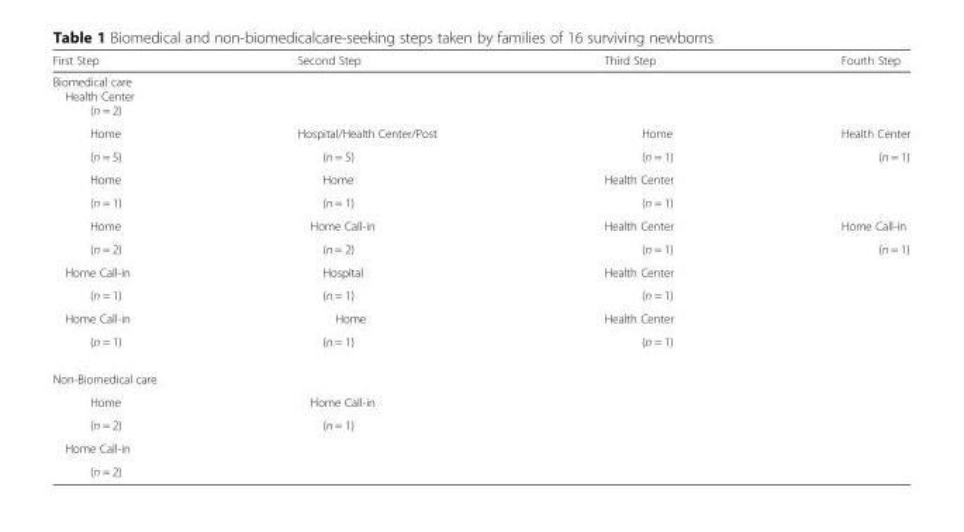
<table><thead><tr><td>First Step</td><td>Second Step</td><td>Third Step</td><td>Fourth Step</td></tr></thead><tbody><tr><td colspan="4">Biomedical care Health Center (n = 2)</td></tr><tr><td>Home</td><td>Hospital/Health Center/Post</td><td>Home</td><td>Health Center</td></tr><tr><td>(n = 5)</td><td>(n = 5)</td><td>(n = 1)</td><td>(n = 1)</td></tr><tr><td>Home</td><td>Home</td><td>Health Center</td><td></td></tr><tr><td>(n = 1)</td><td>(n = 1)</td><td>(n = 1)</td><td></td></tr><tr><td>Home</td><td>Home Call-in</td><td>Health Center</td><td>Home Call-in</td></tr><tr><td>(n = 2)</td><td>(n = 2)</td><td>(n = 1)</td><td>(n = 1)</td></tr><tr><td>Home Call-in</td><td>Hospital</td><td>Health Center</td><td></td></tr><tr><td>(n = 1)</td><td>(n = 1)</td><td>(n = 1)</td><td></td></tr><tr><td>Home Call-in</td><td>Home</td><td>Health Center</td><td></td></tr><tr><td>(n = 1)</td><td>(n = 1)</td><td>(n = 1)</td><td></td></tr><tr><td colspan="4">Non-Biomedical care</td></tr><tr><td>Home</td><td>Home Call-in</td><td></td><td></td></tr><tr><td>(n = 2)</td><td>(n = 1)</td><td></td><td></td></tr><tr><td colspan="4">Home Call-in</td></tr><tr><td>(n = 2)</td><td colspan="3"></td></tr></tbody></table>